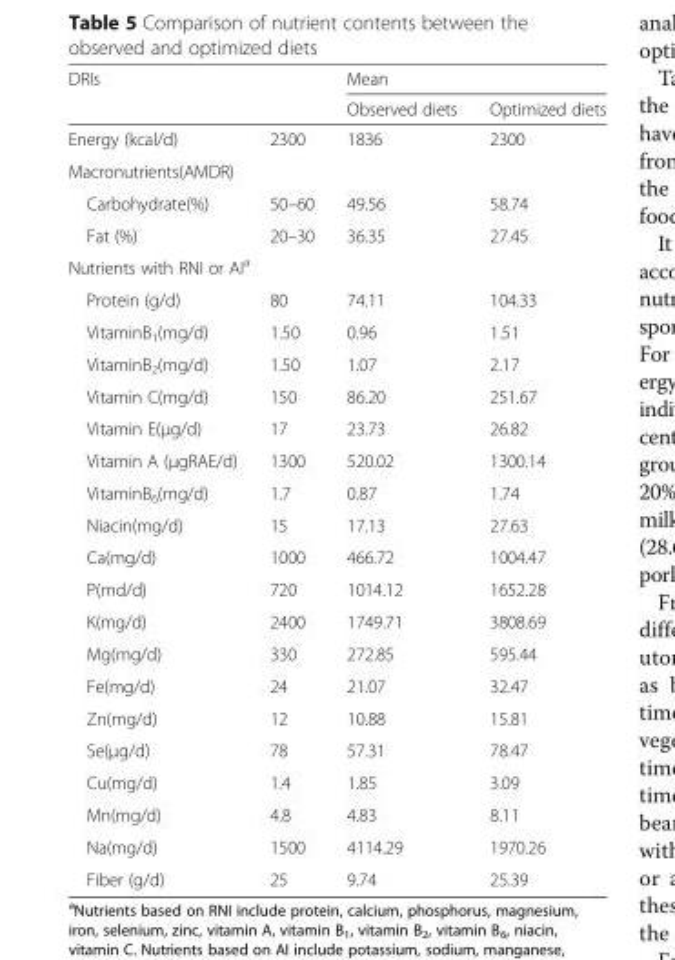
<table><thead><tr><td rowspan="2" colspan="2">DRIs</td><td colspan="2">Mean</td></tr><tr><td rowspan="2">Observed diets 1836</td><td rowspan="2">Optimized diets 2300</td></tr><tr><td>Energy (kcal/d)</td><td>2300</td></tr></thead><tbody><tr><td colspan="4">Macronutrients(AMDR)</td></tr><tr><td>Carbohydrate(%)</td><td>50–60</td><td>49.56</td><td>58.74</td></tr><tr><td>Fat (%)</td><td>20–30</td><td>36.35</td><td>27.45</td></tr><tr><td colspan="4">Nutrients with RNI or AI<sup>a</sup></td></tr><tr><td>Protein (g/d)</td><td>80</td><td>74.11</td><td>104.33</td></tr><tr><td>VitaminB<sub>1</sub>(mg/d)</td><td>1.50</td><td>0.96</td><td>1.51</td></tr><tr><td>VitaminB<sub>2</sub>(mg/d)</td><td>1.50</td><td>1.07</td><td>2.17</td></tr><tr><td>Vitamin C(mg/d)</td><td>150</td><td>86.20</td><td>251.67</td></tr><tr><td>Vitamin E(μg/d)</td><td>17</td><td>23.73</td><td>26.82</td></tr><tr><td>Vitamin A (μgRAE/d)</td><td>1300</td><td>520.02</td><td>1300.14</td></tr><tr><td>VitaminB<sub>6</sub>(mg/d)</td><td>1.7</td><td>0.87</td><td>1.74</td></tr><tr><td>Niacin(mg/d)</td><td>15</td><td>17.13</td><td>27.63</td></tr><tr><td>Ca(mg/d)</td><td>1000</td><td>466.72</td><td>1004.47</td></tr><tr><td>P(md/d)</td><td>720</td><td>1014.12</td><td>1652.28</td></tr><tr><td>K(mg/d)</td><td>2400</td><td>1749.71</td><td>3808.69</td></tr><tr><td>Mg(mg/d)</td><td>330</td><td>272.85</td><td>595.44</td></tr><tr><td>Fe(mg/d)</td><td>24</td><td>21.07</td><td>32.47</td></tr><tr><td>Zn(mg/d)</td><td>12</td><td>10.88</td><td>15.81</td></tr><tr><td>Se(μg/d)</td><td>78</td><td>57.31</td><td>78.47</td></tr><tr><td>Cu(mg/d)</td><td>1.4</td><td>1.85</td><td>3.09</td></tr><tr><td>Mn(mg/d)</td><td>4.8</td><td>4.83</td><td>8.11</td></tr><tr><td>Na(mg/d)</td><td>1500</td><td>4114.29</td><td>1970.26</td></tr><tr><td>Fiber (g/d)</td><td>25</td><td>9.74</td><td>25.39</td></tr></tbody></table>